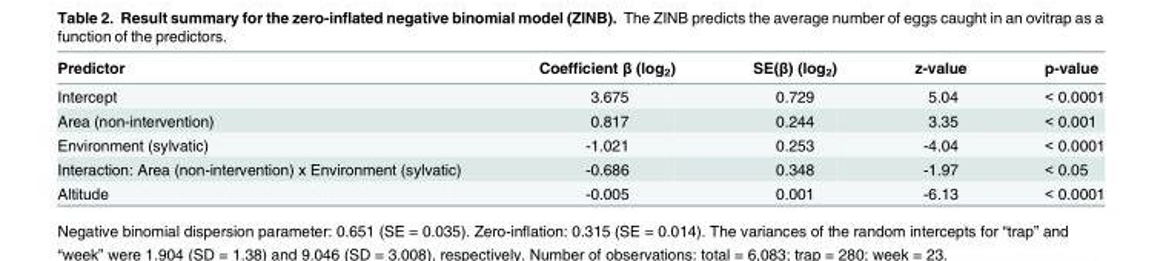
<table><thead><tr><td>Predictor</td><td>Coefficient β (log<sub>2</sub>)</td><td>SE(β) (log<sub>2</sub>)</td><td>z-value</td><td>p-value</td></tr></thead><tbody><tr><td>Intercept</td><td>3.675</td><td>0.729</td><td>5.04</td><td>&lt; 0.0001</td></tr><tr><td>Area (non-intervention)</td><td>0.817</td><td>0.244</td><td>3.35</td><td>&lt; 0.001</td></tr><tr><td>Environment (sylvatic)</td><td>-1.021</td><td>0.253</td><td>-4.04</td><td>&lt; 0.0001</td></tr><tr><td>Interaction: Area (non-intervention) x Environment (sylvatic)</td><td>-0.686</td><td>0.348</td><td>-1.97</td><td>&lt; 0.05</td></tr><tr><td>Altitude</td><td>-0.005</td><td>0.001</td><td>-6.13</td><td>&lt; 0.0001</td></tr></tbody></table>